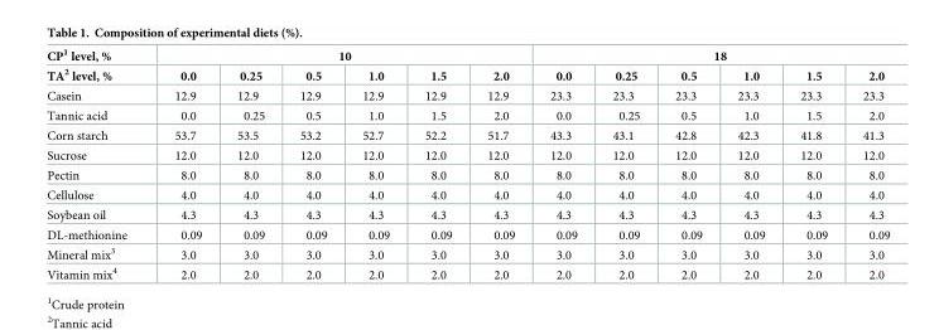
<table><thead><tr><td rowspan="2">CP<sup>1</sup> level, % TA<sup>2</sup> level, %</td><td colspan="6">10</td><td colspan="6">18</td></tr><tr><td>0.0</td><td>0.25</td><td>0.5</td><td>1.0</td><td>1.5</td><td>2.0</td><td>0.0</td><td>0.25</td><td>0.5</td><td>1.0</td><td>1.5</td><td>2.0</td></tr></thead><tbody><tr><td>Casein</td><td>12.9</td><td>12.9</td><td>12.9</td><td>12.9</td><td>12.9</td><td>12.9</td><td>23.3</td><td>23.3</td><td>23.3</td><td>23.3</td><td>23.3</td><td>23.3</td></tr><tr><td>Tannic acid</td><td>0.0</td><td>0.25</td><td>0.5</td><td>1.0</td><td>1.5</td><td>2.0</td><td>0.0</td><td>0.25</td><td>0.5</td><td>1.0</td><td>1.5</td><td>2.0</td></tr><tr><td>Corn starch</td><td>53.7</td><td>53.5</td><td>53.2</td><td>52.7</td><td>52.2</td><td>51.7</td><td>43.3</td><td>43.1</td><td>42.8</td><td>42.3</td><td>41.8</td><td>41.3</td></tr><tr><td>Sucrose</td><td>12.0</td><td>12.0</td><td>12.0</td><td>12.0</td><td>12.0</td><td>12.0</td><td>12.0</td><td>12.0</td><td>12.0</td><td>12.0</td><td>12.0</td><td>12.0</td></tr><tr><td>Pectin</td><td>8.0</td><td>8.0</td><td>8.0</td><td>8.0</td><td>8.0</td><td>8.0</td><td>8.0</td><td>8.0</td><td>8.0</td><td>8.0</td><td>8.0</td><td>8.0</td></tr><tr><td>Cellulose</td><td>4.0</td><td>4.0</td><td>4.0</td><td>4.0</td><td>4.0</td><td>4.0</td><td>4.0</td><td>4.0</td><td>4.0</td><td>4.0</td><td>4.0</td><td>4.0</td></tr><tr><td>Soybean oil</td><td>4.3</td><td>4.3</td><td>4.3</td><td>4.3</td><td>4.3</td><td>4.3</td><td>4.3</td><td>4.3</td><td>4.3</td><td>4.3</td><td>4.3</td><td>4.3</td></tr><tr><td>DL-methionine</td><td>0.09</td><td>0.09</td><td>0.09</td><td>0.09</td><td>0.09</td><td>0.09</td><td>0.09</td><td>0.09</td><td>0.09</td><td>0.09</td><td>0.09</td><td>0.09</td></tr><tr><td>Mineral mix<sup>3</sup></td><td>3.0</td><td>3.0</td><td>3.0</td><td>3.0</td><td>3.0</td><td>3.0</td><td>3.0</td><td>3.0</td><td>3.0</td><td>3.0</td><td>3.0</td><td>3.0</td></tr><tr><td>Vitamin mix<sup>4</sup></td><td>2.0</td><td>2.0</td><td>2.0</td><td>2.0</td><td>2.0</td><td>2.0</td><td>2.0</td><td>2.0</td><td>2.0</td><td>2.0</td><td>2.0</td><td>2.0</td></tr></tbody></table>